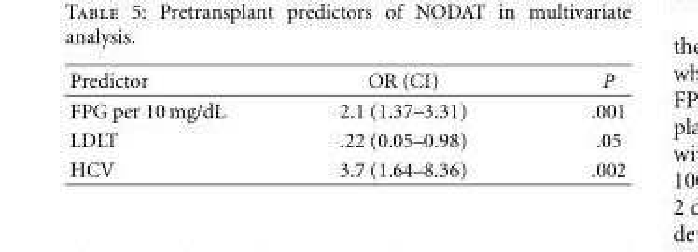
<table><thead><tr><td>Predictor</td><td>OR (CI)</td><td>P</td></tr></thead><tbody><tr><td>FPG per 10 mg/dL</td><td>2.1 (1.37–3.31)</td><td>.001</td></tr><tr><td>LDLT</td><td>.22 (0.05–0.98)</td><td>.05</td></tr><tr><td>HCV</td><td>3.7 (1.64–8.36)</td><td>.002</td></tr></tbody></table>